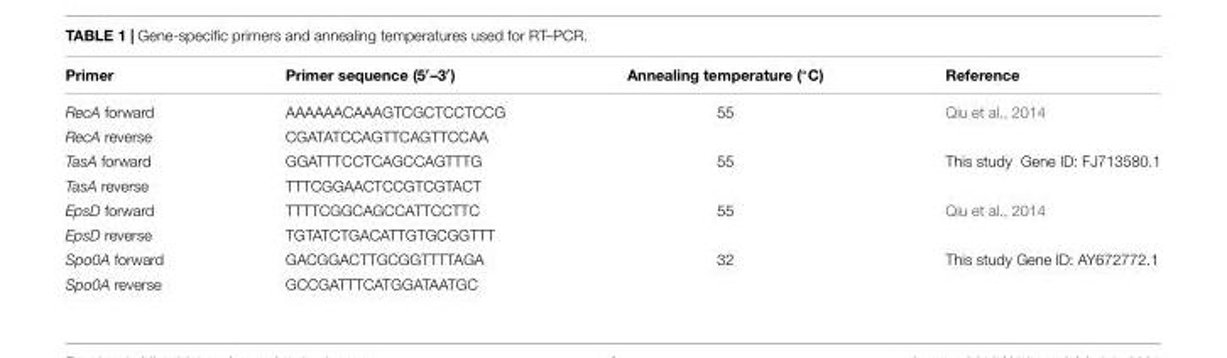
<table><thead><tr><td>Primer</td><td>Primer sequence (5′–3′)</td><td>Annealing temperature (◦C)</td><td>Reference</td></tr></thead><tbody><tr><td>RecA forward</td><td>AAAAAACAAAGTCGCTCCTCCG</td><td>55</td><td>Qiu et al., 2014</td></tr><tr><td>RecA reverse</td><td>CGATATCCAGTTCAGTTCCAA</td><td></td><td></td></tr><tr><td>TasA forward</td><td>GGATTTCCTCAGCCAGTTTG</td><td>55</td><td>This study Gene ID: FJ713580.1</td></tr><tr><td>TasA reverse</td><td>TTTCGGAACTCCGTCGTACT</td><td></td><td></td></tr><tr><td>EpsD forward</td><td>TTTTCGGCAGCCATTCCTTC</td><td>55</td><td>Qiu et al., 2014</td></tr><tr><td>EpsD reverse</td><td>TGTATCTGACATTGTGCGGTTT</td><td></td><td></td></tr><tr><td>Spo0A forward</td><td>GACGGACTTGCGGTTTTAGA</td><td>32</td><td>This study Gene ID: AY672772.1</td></tr><tr><td>Spo0A reverse</td><td>GCCGATTTCATGGATAATGC</td><td></td><td></td></tr></tbody></table>